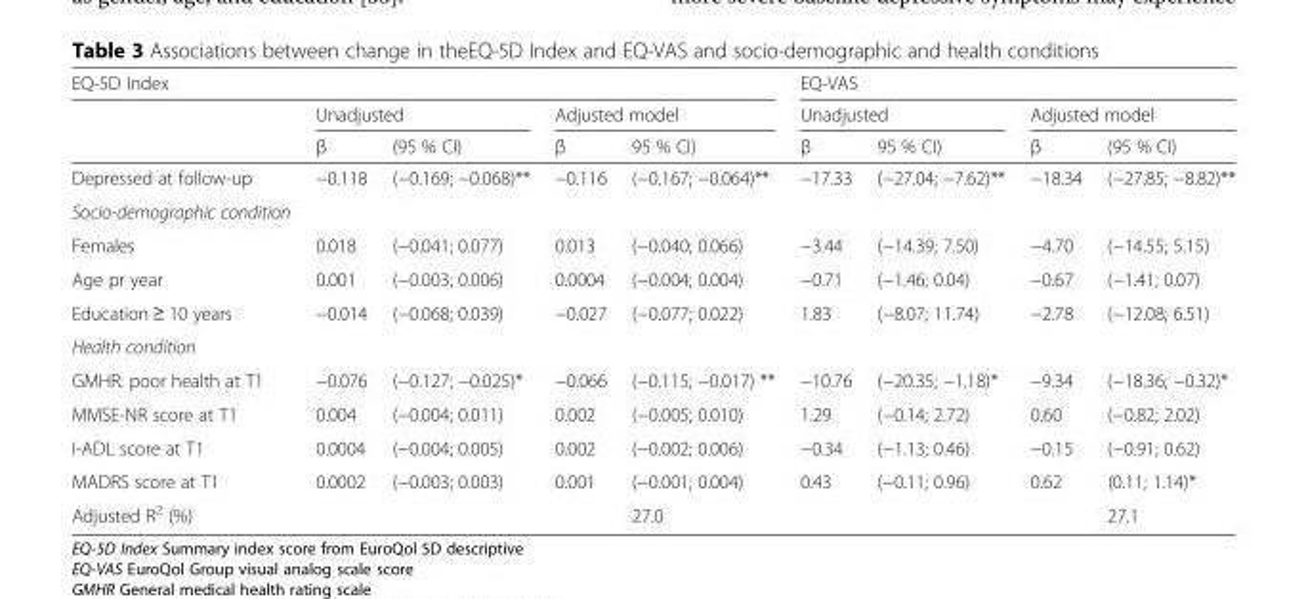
<table><thead><tr><td colspan="5">EQ-5D Index</td><td colspan="4">EQ-VAS</td></tr><tr><td rowspan="2"></td><td colspan="2">Unadjusted</td><td colspan="2">Adjusted model</td><td colspan="2">Unadjusted</td><td colspan="2">Adjusted model</td></tr><tr><td>β</td><td>(95 % CI)</td><td>β</td><td>95 % CI)</td><td>β</td><td>95 % CI)</td><td>β</td><td>(95 % CI)</td></tr></thead><tbody><tr><td>Depressed at follow-up</td><td>−0.118</td><td>(−0.169; −0.068)**</td><td>−0.116</td><td>(−0.167; −0.064)**</td><td>−17.33</td><td>(−27.04; −7.62)**</td><td>−18.34</td><td>(−27.85; −8.82)**</td></tr><tr><td colspan="9">Socio-demographic condition</td></tr><tr><td>Females</td><td>0.018</td><td>(−0.041; 0.077)</td><td>0.013</td><td>(−0.040; 0.066)</td><td>−3.44</td><td>(−14.39; 7.50)</td><td>−4.70</td><td>(−14.55; 5.15)</td></tr><tr><td>Age pr year</td><td>0.001</td><td>(−0.003; 0.006)</td><td>0.0004</td><td>(−0.004; 0.004)</td><td>−0.71</td><td>(−1.46; 0.04)</td><td>−0.67</td><td>(−1.41; 0.07)</td></tr><tr><td>Education ≥ 10 years</td><td>−0.014</td><td>(−0.068; 0.039)</td><td>−0.027</td><td>(−0.077; 0.022)</td><td>1.83</td><td>(−8.07; 11.74)</td><td>−2.78</td><td>(−12.08; 6.51)</td></tr><tr><td colspan="9">Health condition</td></tr><tr><td>GMHR: poor health at T1</td><td>−0.076</td><td>(−0.127; −0.025)*</td><td>−0.066</td><td>(−0.115; −0.017) **</td><td>−10.76</td><td>(−20.35; −1.18)*</td><td>−9.34</td><td>(−18.36; −0.32)*</td></tr><tr><td>MMSE-NR score at T1</td><td>0.004</td><td>(−0.004; 0.011)</td><td>0.002</td><td>(−0.005; 0.010)</td><td>1.29</td><td>(−0.14; 2.72)</td><td>0.60</td><td>(−0.82; 2.02)</td></tr><tr><td>I-ADL score at T1</td><td>0.0004</td><td>(−0.004; 0.005)</td><td>0.002</td><td>(−0.002; 0.006)</td><td>−0.34</td><td>(−1.13; 0.46)</td><td>−0.15</td><td>(−0.91; 0.62)</td></tr><tr><td>MADRS score at T1</td><td>0.0002</td><td>(−0.003; 0.003)</td><td>0.001</td><td>(−0.001; 0.004)</td><td>0.43</td><td>(−0.11; 0.96)</td><td>0.62</td><td>(0.11; 1.14)*</td></tr><tr><td colspan="4">Adjusted R<sup>2</sup> (%)</td><td>27.0</td><td colspan="3"></td><td>27.1</td></tr></tbody></table>